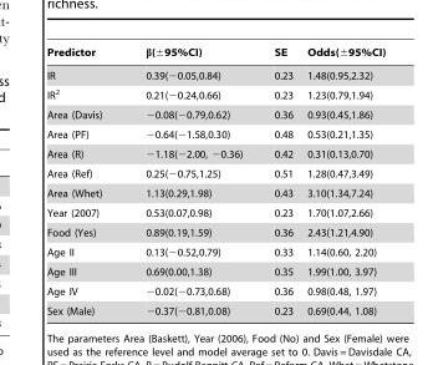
<table><thead><tr><td>Predictor</td><td>β(±95%CI)</td><td>SE</td><td>Odds(±95%CI)</td></tr></thead><tbody><tr><td>IR</td><td>0.39(−0.05,0.84)</td><td>0.23</td><td>1.48(0.95,2.32)</td></tr><tr><td>IR<sup>2</sup></td><td>0.21(−0.24,0.66)</td><td>0.23</td><td>1.23(0.79,1.94)</td></tr><tr><td>Area (Davis)</td><td>−0.08(−0.79,0.62)</td><td>0.36</td><td>0.93(0.45,1.86)</td></tr><tr><td>Area (PF)</td><td>−0.64(−1.58,0.30)</td><td>0.48</td><td>0.53(0.21,1.35)</td></tr><tr><td>Area (R)</td><td>−1.18(−2.00, −0.36)</td><td>0.42</td><td>0.31(0.13,0.70)</td></tr><tr><td>Area (Ref)</td><td>0.25(−0.75,1.25)</td><td>0.51</td><td>1.28(0.47,3.49)</td></tr><tr><td>Area (Whet)</td><td>1.13(0.29,1.98)</td><td>0.43</td><td>3.10(1.34,7.24)</td></tr><tr><td>Year (2007)</td><td>0.53(0.07,0.98)</td><td>0.23</td><td>1.70(1.07,2.66)</td></tr><tr><td>Food (Yes)</td><td>0.89(0.19,1.59)</td><td>0.36</td><td>2.43(1.21,4.90)</td></tr><tr><td>Age II</td><td>0.13(−0.52,0.79)</td><td>0.33</td><td>1.14(0.60, 2.20)</td></tr><tr><td>Age III</td><td>0.69(0.00,1.38)</td><td>0.35</td><td>1.99(1.00, 3.97)</td></tr><tr><td>Age IV</td><td>−0.02(−0.73,0.68)</td><td>0.36</td><td>0.98(0.48, 1.97)</td></tr><tr><td>Sex (Male)</td><td>−0.37(−0.81,0.08)</td><td>0.23</td><td>0.69(0.44, 1.08)</td></tr></tbody></table>